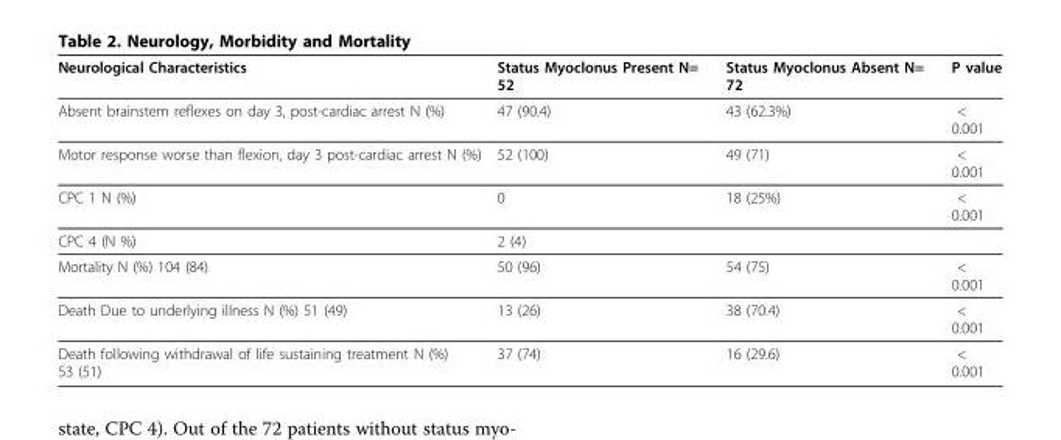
<table><thead><tr><td>Neurological Characteristics</td><td>Status Myoclonus Present N= 52</td><td>Status Myoclonus Absent N= 72</td><td>P value</td></tr></thead><tbody><tr><td>Absent brainstem reflexes on day 3, post-cardiac arrest N (%)</td><td>47 (90.4)</td><td>43 (62.3%)</td><td>&lt; 0.001</td></tr><tr><td>Motor response worse than flexion, day 3 post-cardiac arrest N (%)</td><td>52 (100)</td><td>49 (71)</td><td>&lt; 0.001</td></tr><tr><td>CPC 1 N (%)</td><td>0</td><td>18 (25%)</td><td>&lt; 0.001</td></tr><tr><td>CPC 4 (N %)</td><td>2 (4)</td><td></td><td></td></tr><tr><td>Mortality N (%) 104 (84)</td><td>50 (96)</td><td>54 (75)</td><td>&lt; 0.001</td></tr><tr><td>Death Due to underlying illness N (%) 51 (49)</td><td>13 (26)</td><td>38 (70.4)</td><td>&lt; 0.001</td></tr><tr><td>Death following withdrawal of life sustaining treatment N (%) 53 (51)</td><td>37 (74)</td><td>16 (29.6)</td><td>&lt; 0.001</td></tr></tbody></table>